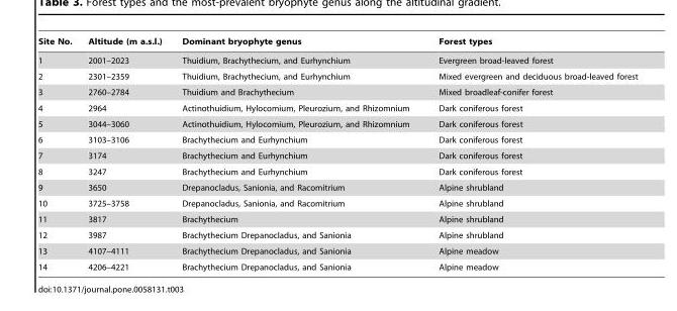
<table><thead><tr><td>Site No.</td><td>Altitude (m a.s.l.)</td><td>Dominant bryophyte genus</td><td>Forest types</td></tr></thead><tbody><tr><td>1</td><td>2001–2023</td><td>Thuidium, Brachythecium, and Eurhynchium</td><td>Evergreen broad-leaved forest</td></tr><tr><td>2</td><td>2301–2359</td><td>Thuidium, Brachythecium, and Eurhynchium</td><td>Mixed evergreen and deciduous broad-leaved forest</td></tr><tr><td>3</td><td>2760–2784</td><td>Thuidium and Brachythecium</td><td>Mixed broadleaf-conifer forest</td></tr><tr><td>4</td><td>2964</td><td>Actinothuidium, Hylocomium, Pleurozium, and Rhizomnium</td><td>Dark coniferous forest</td></tr><tr><td>5</td><td>3044–3060</td><td>Actinothuidium, Hylocomium, Pleurozium, and Rhizomnium</td><td>Dark coniferous forest</td></tr><tr><td>6</td><td>3103–3106</td><td>Brachythecium and Eurhynchium</td><td>Dark coniferous forest</td></tr><tr><td>7</td><td>3174</td><td>Brachythecium and Eurhynchium</td><td>Dark coniferous forest</td></tr><tr><td>8</td><td>3247</td><td>Brachythecium and Eurhynchium</td><td>Dark coniferous forest</td></tr><tr><td>9</td><td>3650</td><td>Drepanocladus, Sanionia, and Racomitrium</td><td>Alpine shrubland</td></tr><tr><td>10</td><td>3725–3758</td><td>Drepanocladus, Sanionia, and Racomitrium</td><td>Alpine shrubland</td></tr><tr><td>11</td><td>3817</td><td>Brachythecium</td><td>Alpine shrubland</td></tr><tr><td>12</td><td>3987</td><td>Brachythecium Drepanocladus, and Sanionia</td><td>Alpine shrubland</td></tr><tr><td>13</td><td>4107–4111</td><td>Brachythecium Drepanocladus, and Sanionia</td><td>Alpine meadow</td></tr><tr><td>14</td><td>4206–4221</td><td>Brachythecium Drepanocladus, and Sanionia</td><td>Alpine meadow</td></tr></tbody></table>